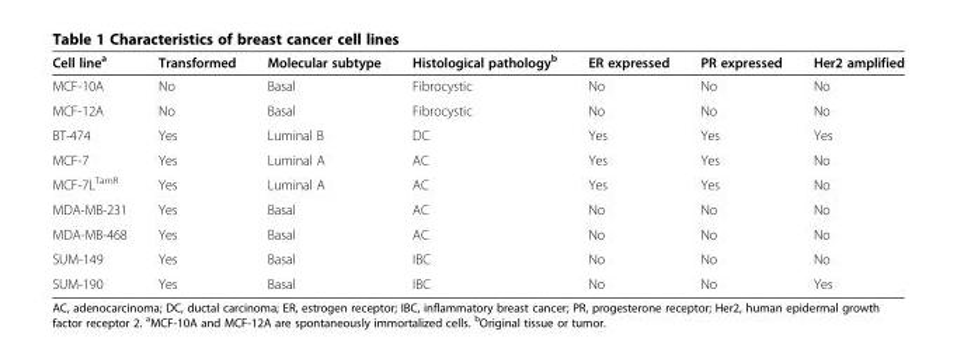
<table><thead><tr><td>Cell line<sup>a</sup></td><td>Transformed</td><td>Molecular subtype</td><td>Histological pathology<sup>b</sup></td><td>ER expressed</td><td>PR expressed</td><td>Her2 amplified</td></tr></thead><tbody><tr><td>MCF-10A</td><td>No</td><td>Basal</td><td>Fibrocystic</td><td>No</td><td>No</td><td>No</td></tr><tr><td>MCF-12A</td><td>No</td><td>Basal</td><td>Fibrocystic</td><td>No</td><td>No</td><td>No</td></tr><tr><td>BT-474</td><td>Yes</td><td>Luminal B</td><td>DC</td><td>Yes</td><td>Yes</td><td>Yes</td></tr><tr><td>MCF-7</td><td>Yes</td><td>Luminal A</td><td>AC</td><td>Yes</td><td>Yes</td><td>No</td></tr><tr><td>MCF-7L<sup>TamR</sup></td><td>Yes</td><td>Luminal A</td><td>AC</td><td>Yes</td><td>Yes</td><td>No</td></tr><tr><td>MDA-MB-231</td><td>Yes</td><td>Basal</td><td>AC</td><td>No</td><td>No</td><td>No</td></tr><tr><td>MDA-MB-468</td><td>Yes</td><td>Basal</td><td>AC</td><td>No</td><td>No</td><td>No</td></tr><tr><td>SUM-149</td><td>Yes</td><td>Basal</td><td>IBC</td><td>No</td><td>No</td><td>No</td></tr><tr><td>SUM-190</td><td>Yes</td><td>Basal</td><td>IBC</td><td>No</td><td>No</td><td>Yes</td></tr></tbody></table>